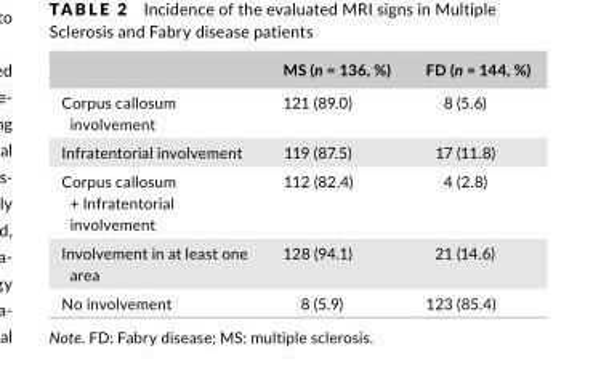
<table><thead><tr><td></td><td>MS (n = 136, %)</td><td>FD (n = 144, %)</td></tr></thead><tbody><tr><td>Corpus callosum involvement</td><td>121 (89.0)</td><td>8 (5.6)</td></tr><tr><td>Infratentorial involvement</td><td>119 (87.5)</td><td>17 (11.8)</td></tr><tr><td>Corpus callosum + Infratentorial involvement</td><td>112 (82.4)</td><td>4 (2.8)</td></tr><tr><td>Involvement in at least one area</td><td>128 (94.1)</td><td>21 (14.6)</td></tr><tr><td>No involvement</td><td>8 (5.9)</td><td>123 (85.4)</td></tr></tbody></table>